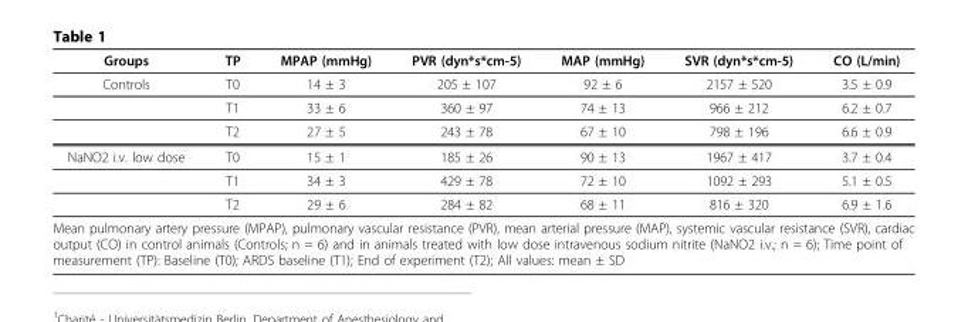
<table><thead><tr><td>Groups</td><td>TP</td><td>MPAP (mmHg)</td><td>PVR (dyn*s*cm-5)</td><td>MAP (mmHg)</td><td>SVR (dyn*s*cm-5)</td><td>CO (L/min)</td></tr></thead><tbody><tr><td rowspan="3">Controls</td><td>T0</td><td>14 ± 3</td><td>205 ± 107</td><td>92 ± 6</td><td>2157 ± 520</td><td>3.5 ± 0.9</td></tr><tr><td>T1</td><td>33 ± 6</td><td>360 ± 97</td><td>74 ± 13</td><td>966 ± 212</td><td>6.2 ± 0.7</td></tr><tr><td>T2</td><td>27 ± 5</td><td>243 ± 78</td><td>67 ± 10</td><td>798 ± 196</td><td>6.6 ± 0.9</td></tr><tr><td rowspan="3">NaNO2 i.v. low dose</td><td>T0</td><td>15 ± 1</td><td>185 ± 26</td><td>90 ± 13</td><td>1967 ± 417</td><td>3.7 ± 0.4</td></tr><tr><td>T1</td><td>34 ± 3</td><td>429 ± 78</td><td>72 ± 10</td><td>1092 ± 293</td><td>5.1 ± 0.5</td></tr><tr><td>T2</td><td>29 ± 6</td><td>284 ± 82</td><td>68 ± 11</td><td>816 ± 320</td><td>6.9 ± 1.6</td></tr><tr><td colspan="7">Mean pulmonary artery pressure (MPAP), pulmonary vascular resistance (PVR), mean arterial pressure (MAP), systemic vascular resistance (SVR), cardiac output (CO) in control animals (Controls; n = 6) and in animals treated with low dose intravenous sodium nitrite (NaNO2 i.v.; n = 6); Time point of measurement (TP): Baseline (T0); ARDS baseline (T1); End of experiment (T2); All values: mean ± SD</td></tr></tbody></table>